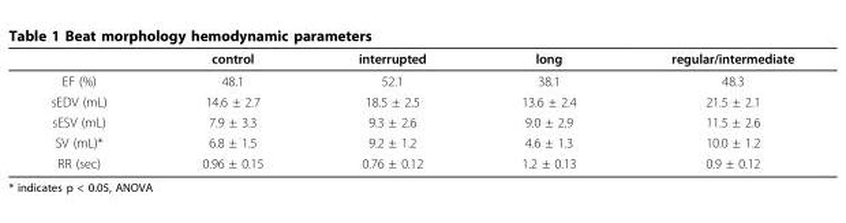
<table><thead><tr><td></td><td>control</td><td>interrupted</td><td>long</td><td>regular/intermediate</td></tr></thead><tbody><tr><td>EF (%)</td><td>48.1</td><td>52.1</td><td>38.1</td><td>48.3</td></tr><tr><td>sEDV (mL)</td><td>14.6 ± 2.7</td><td>18.5 ± 2.5</td><td>13.6 ± 2.4</td><td>21.5 ± 2.1</td></tr><tr><td>sESV (mL)</td><td>7.9 ± 3.3</td><td>9.3 ± 2.6</td><td>9.0 ± 2.9</td><td>11.5 ± 2.6</td></tr><tr><td>SV (mL)*</td><td>6.8 ± 1.5</td><td>9.2 ± 1.2</td><td>4.6 ± 1.3</td><td>10.0 ± 1.2</td></tr><tr><td>RR (sec)</td><td>0.96 ± 0.15</td><td>0.76 ± 0.12</td><td>1.2 ± 0.13</td><td>0.9 ± 0.12</td></tr></tbody></table>